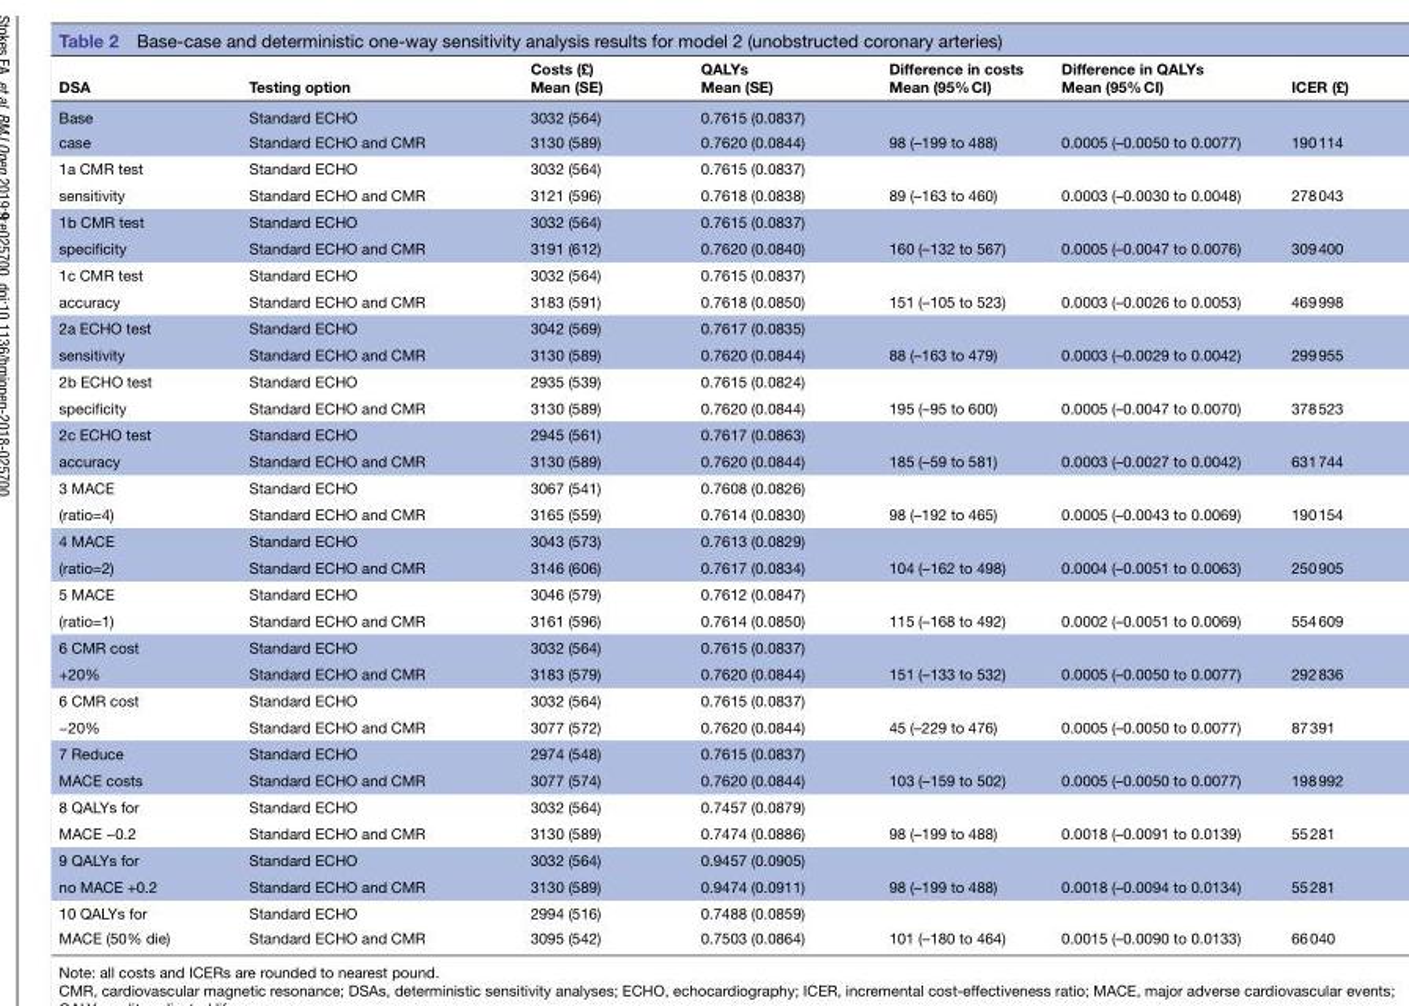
<table><thead><tr><td>DSA</td><td>Testing option</td><td>Costs (£) Mean (SE)</td><td>QALYs Mean (SE)</td><td>Difference in costs Mean (95% CI)</td><td>Difference in QALYs Mean (95% CI)</td><td>ICER (£)</td></tr></thead><tbody><tr><td>Base</td><td>Standard ECHO</td><td>3032 (564)</td><td>0.7615 (0.0837)</td><td></td><td></td><td></td></tr><tr><td>case</td><td>Standard ECHO and CMR</td><td>3130 (589)</td><td>0.7620 (0.0844)</td><td>98 (–199 to 488)</td><td>0.0005 (–0.0050 to 0.0077)</td><td>190 114</td></tr><tr><td>1a CMR test</td><td>Standard ECHO</td><td>3032 (564)</td><td>0.7615 (0.0837)</td><td></td><td></td><td></td></tr><tr><td>sensitivity</td><td>Standard ECHO and CMR</td><td>3121 (596)</td><td>0.7618 (0.0838)</td><td>89 (–163 to 460)</td><td>0.0003 (–0.0030 to 0.0048)</td><td>278 043</td></tr><tr><td>1b CMR test</td><td>Standard ECHO</td><td>3032 (564)</td><td>0.7615 (0.0837)</td><td></td><td></td><td></td></tr><tr><td>specificity</td><td>Standard ECHO and CMR</td><td>3191 (612)</td><td>0.7620 (0.0840)</td><td>160 (–132 to 567)</td><td>0.0005 (–0.0047 to 0.0076)</td><td>309 400</td></tr><tr><td>1c CMR test</td><td>Standard ECHO</td><td>3032 (564)</td><td>0.7615 (0.0837)</td><td></td><td></td><td></td></tr><tr><td>accuracy</td><td>Standard ECHO and CMR</td><td>3183 (591)</td><td>0.7618 (0.0850)</td><td>151 (–105 to 523)</td><td>0.0003 (–0.0026 to 0.0053)</td><td>469 998</td></tr><tr><td>2a ECHO test</td><td>Standard ECHO</td><td>3042 (569)</td><td>0.7617 (0.0835)</td><td></td><td></td><td></td></tr><tr><td>sensitivity</td><td>Standard ECHO and CMR</td><td>3130 (589)</td><td>0.7620 (0.0844)</td><td>88 (–163 to 479)</td><td>0.0003 (–0.0029 to 0.0042)</td><td>299 955</td></tr><tr><td>2b ECHO test</td><td>Standard ECHO</td><td>2935 (539)</td><td>0.7615 (0.0824)</td><td></td><td></td><td></td></tr><tr><td>specificity</td><td>Standard ECHO and CMR</td><td>3130 (589)</td><td>0.7620 (0.0844)</td><td>195 (–95 to 600)</td><td>0.0005 (–0.0047 to 0.0070)</td><td>378 523</td></tr><tr><td>2c ECHO test</td><td>Standard ECHO</td><td>2945 (561)</td><td>0.7617 (0.0863)</td><td></td><td></td><td></td></tr><tr><td>accuracy</td><td>Standard ECHO and CMR</td><td>3130 (589)</td><td>0.7620 (0.0844)</td><td>185 (–59 to 581)</td><td>0.0003 (–0.0027 to 0.0042)</td><td>631 744</td></tr><tr><td>3 MACE</td><td>Standard ECHO</td><td>3067 (541)</td><td>0.7608 (0.0826)</td><td></td><td></td><td></td></tr><tr><td>(ratio=4)</td><td>Standard ECHO and CMR</td><td>3165 (559)</td><td>0.7614 (0.0830)</td><td>98 (–192 to 465)</td><td>0.0005 (–0.0043 to 0.0069)</td><td>190 154</td></tr><tr><td>4 MACE</td><td>Standard ECHO</td><td>3043 (573)</td><td>0.7613 (0.0829)</td><td></td><td></td><td></td></tr><tr><td>(ratio=2)</td><td>Standard ECHO and CMR</td><td>3146 (606)</td><td>0.7617 (0.0834)</td><td>104 (–162 to 498)</td><td>0.0004 (–0.0051 to 0.0063)</td><td>250 905</td></tr><tr><td>5 MACE</td><td>Standard ECHO</td><td>3046 (579)</td><td>0.7612 (0.0847)</td><td></td><td></td><td></td></tr><tr><td>(ratio=1)</td><td>Standard ECHO and CMR</td><td>3161 (596)</td><td>0.7614 (0.0850)</td><td>115 (–168 to 492)</td><td>0.0002 (–0.0051 to 0.0069)</td><td>554 609</td></tr><tr><td>6 CMR cost</td><td>Standard ECHO</td><td>3032 (564)</td><td>0.7615 (0.0837)</td><td></td><td></td><td></td></tr><tr><td>+20%</td><td>Standard ECHO and CMR</td><td>3183 (579)</td><td>0.7620 (0.0844)</td><td>151 (–133 to 532)</td><td>0.0005 (–0.0050 to 0.0077)</td><td>292 836</td></tr><tr><td>6 CMR cost</td><td>Standard ECHO</td><td>3032 (564)</td><td>0.7615 (0.0837)</td><td></td><td></td><td></td></tr><tr><td>−20%</td><td>Standard ECHO and CMR</td><td>3077 (572)</td><td>0.7620 (0.0844)</td><td>45 (–229 to 476)</td><td>0.0005 (–0.0050 to 0.0077)</td><td>87 391</td></tr><tr><td>7 Reduce</td><td>Standard ECHO</td><td>2974 (548)</td><td>0.7615 (0.0837)</td><td></td><td></td><td></td></tr><tr><td>MACE costs</td><td>Standard ECHO and CMR</td><td>3077 (574)</td><td>0.7620 (0.0844)</td><td>103 (–159 to 502)</td><td>0.0005 (–0.0050 to 0.0077)</td><td>198 992</td></tr><tr><td>8 QALYs for</td><td>Standard ECHO</td><td>3032 (564)</td><td>0.7457 (0.0879)</td><td></td><td></td><td></td></tr><tr><td>MACE −0.2</td><td>Standard ECHO and CMR</td><td>3130 (589)</td><td>0.7474 (0.0886)</td><td>98 (–199 to 488)</td><td>0.0018 (–0.0091 to 0.0139)</td><td>55 281</td></tr><tr><td>9 QALYs for</td><td>Standard ECHO</td><td>3032 (564)</td><td>0.9457 (0.0905)</td><td></td><td></td><td></td></tr><tr><td>no MACE +0.2</td><td>Standard ECHO and CMR</td><td>3130 (589)</td><td>0.9474 (0.0911)</td><td>98 (–199 to 488)</td><td>0.0018 (–0.0094 to 0.0134)</td><td>55 281</td></tr><tr><td>10 QALYs for</td><td>Standard ECHO</td><td>2994 (516)</td><td>0.7488 (0.0859)</td><td></td><td></td><td></td></tr><tr><td>MACE (50% die)</td><td>Standard ECHO and CMR</td><td>3095 (542)</td><td>0.7503 (0.0864)</td><td>101 (–180 to 464)</td><td>0.0015 (–0.0090 to 0.0133)</td><td>66 040</td></tr></tbody></table>